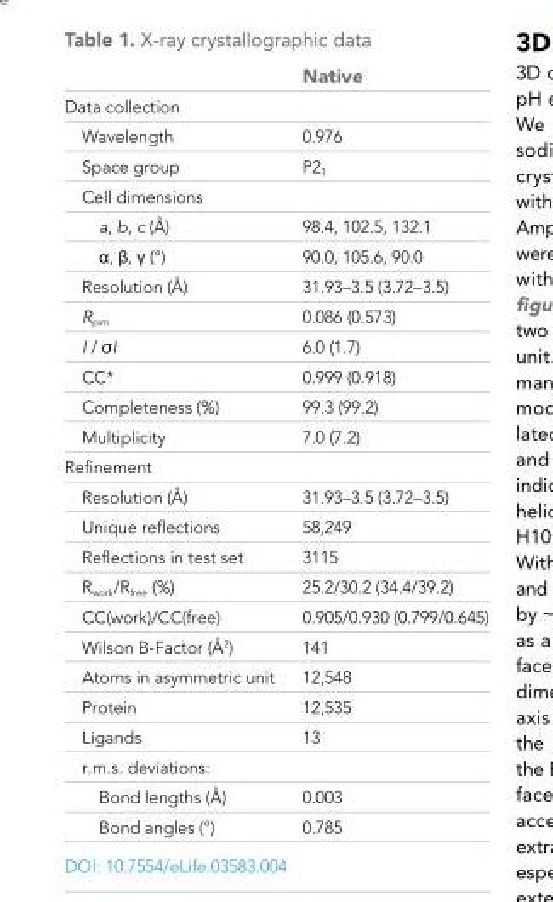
<table><thead><tr><td></td><td>Native</td></tr></thead><tbody><tr><td colspan="2">Data collection</td></tr><tr><td>Wavelength</td><td>0.976</td></tr><tr><td>Space group</td><td>P2<sub>1</sub></td></tr><tr><td colspan="2">Cell dimensions</td></tr><tr><td>a, b, c (Å)</td><td>98.4, 102.5, 132.1</td></tr><tr><td>α, β, γ (°)</td><td>90.0, 105.6, 90.0</td></tr><tr><td>Resolution (Å)</td><td>31.93–3.5 (3.72–3.5)</td></tr><tr><td>R<sub>pim</sub></td><td>0.086 (0.573)</td></tr><tr><td>I / σI</td><td>6.0 (1.7)</td></tr><tr><td>CC*</td><td>0.999 (0.918)</td></tr><tr><td>Completeness (%)</td><td>99.3 (99.2)</td></tr><tr><td>Multiplicity</td><td>7.0 (7.2)</td></tr><tr><td colspan="2">Refinement</td></tr><tr><td>Resolution (Å)</td><td>31.93–3.5 (3.72–3.5)</td></tr><tr><td>Unique reflections</td><td>58,249</td></tr><tr><td>Reflections in test set</td><td>3115</td></tr><tr><td>R<sub>work</sub>/R<sub>free</sub> (%)</td><td>25.2/30.2 (34.4/39.2)</td></tr><tr><td>CC(work)/CC(free)</td><td>0.905/0.930 (0.799/0.645)</td></tr><tr><td>Wilson B-Factor (Å<sup>2</sup>)</td><td>141</td></tr><tr><td>Atoms in asymmetric unit</td><td>12,548</td></tr><tr><td>Protein</td><td>12,535</td></tr><tr><td>Ligands</td><td>13</td></tr><tr><td colspan="2">r.m.s. deviations:</td></tr><tr><td>Bond lengths (Å)</td><td>0.003</td></tr><tr><td>Bond angles (°)</td><td>0.785</td></tr></tbody></table>